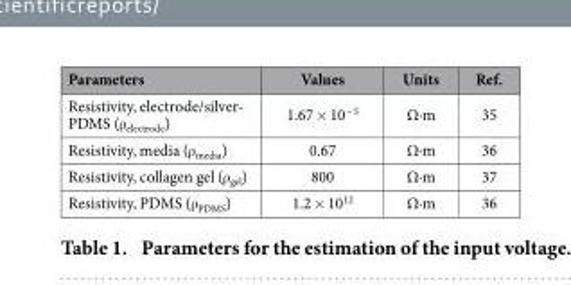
<table><thead><tr><td>Parameters</td><td>Values</td><td>Units</td><td>Ref.</td></tr></thead><tbody><tr><td>Resistivity, electrode/silver- PDMS (ρ <sub>electrode</sub>)</td><td>1.67 × 10<sup>−5</sup></td><td>Ω·m</td><td>35</td></tr><tr><td>Resistivity, media (ρ <sub>media</sub>)</td><td>0.67</td><td>Ω·m</td><td>36</td></tr><tr><td>Resistivity, collagen gel (ρ <sub>gel</sub>)</td><td>800</td><td>Ω·m</td><td>37</td></tr><tr><td>Resistivity, PDMS (ρ <sub>PDMS</sub>)</td><td>1.2 × 10<sup>12</sup></td><td>Ω·m</td><td>36</td></tr></tbody></table>